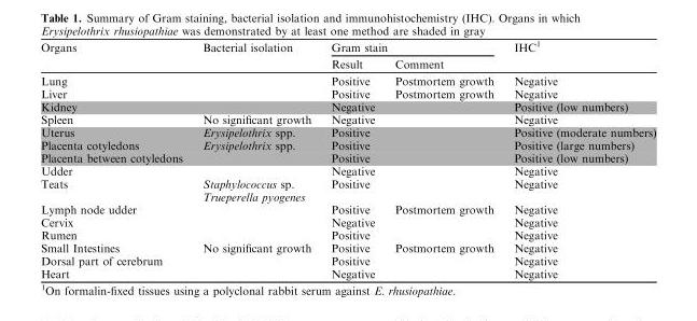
<table><thead><tr><td rowspan="2">Organs</td><td rowspan="2">Bacterial isolation</td><td colspan="2">Gram stain</td><td rowspan="2">IHC1</td></tr><tr><td>Result</td><td>Comment</td></tr></thead><tbody><tr><td>Lung</td><td></td><td>Positive</td><td>Postmortem growth</td><td>Negative</td></tr><tr><td>Liver</td><td></td><td>Positive</td><td>Postmortem growth</td><td>Negative</td></tr><tr><td>Kidney</td><td></td><td>Negative</td><td></td><td>Positive (low numbers)</td></tr><tr><td>Spleen</td><td>No significant growth</td><td>Negative</td><td></td><td>Negative</td></tr><tr><td>Uterus</td><td>Erysipelothrix spp.</td><td>Positive</td><td></td><td>Positive (moderate numbers)</td></tr><tr><td>Placenta cotyledons</td><td>Erysipelothrix spp.</td><td>Positive</td><td></td><td>Positive (large numbers)</td></tr><tr><td>Placenta between cotyledons</td><td></td><td>Positive</td><td></td><td>Positive (low numbers)</td></tr><tr><td>Udder</td><td></td><td>Negative</td><td></td><td>Negative</td></tr><tr><td rowspan="2">Teats</td><td>Staphylococcus sp.</td><td>Positive</td><td></td><td>Negative</td></tr><tr><td>Trueperella pyogenes</td><td></td><td></td><td></td></tr><tr><td>Lymph node udder</td><td></td><td>Positive</td><td>Postmortem growth</td><td>Negative</td></tr><tr><td>Cervix</td><td></td><td>Negative</td><td></td><td>Negative</td></tr><tr><td>Rumen</td><td></td><td>Positive</td><td></td><td>Negative</td></tr><tr><td>Small Intestines</td><td>No significant growth</td><td>Positive</td><td>Postmortem growth</td><td>Negative</td></tr><tr><td>Dorsal part of cerebrum</td><td></td><td>Positive</td><td></td><td>Negative</td></tr><tr><td>Heart</td><td></td><td>Negative</td><td></td><td>Negative</td></tr></tbody></table>